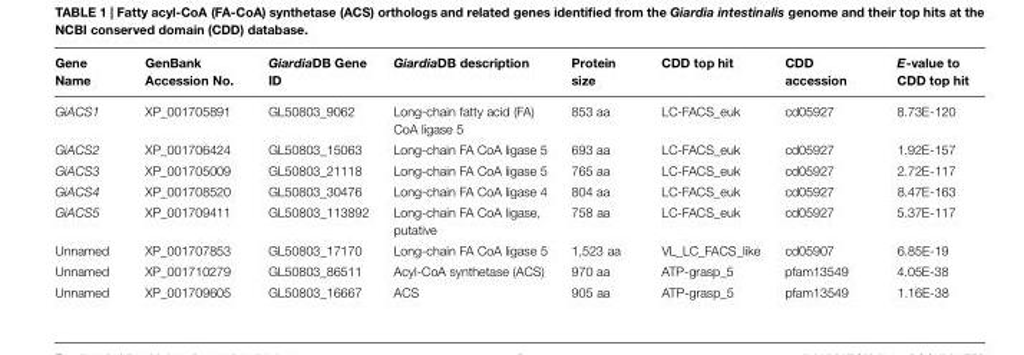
<table><thead><tr><td>Gene Name</td><td>GenBank Accession No.</td><td>GiardiaDB Gene ID</td><td>GiardiaDB description</td><td>Protein size</td><td>CDD top hit</td><td>CDD accession</td><td>E-value to CDD top hit</td></tr></thead><tbody><tr><td>GiACS1</td><td>XP_001705891</td><td>GL50803_9062</td><td>Long-chain fatty acid (FA) CoA ligase 5</td><td>853 aa</td><td>LC-FACS_euk</td><td>cd05927</td><td>8.73E-120</td></tr><tr><td>GiACS2</td><td>XP_001706424</td><td>GL50803_15063</td><td>Long-chain FA CoA ligase 5</td><td>693 aa</td><td>LC-FACS_euk</td><td>cd05927</td><td>1.92E-157</td></tr><tr><td>GiACS3</td><td>XP_001705009</td><td>GL50803_21118</td><td>Long-chain FA CoA ligase 5</td><td>765 aa</td><td>LC-FACS_euk</td><td>cd05927</td><td>2.72E-117</td></tr><tr><td>GiACS4</td><td>XP_001708520</td><td>GL50803_30476</td><td>Long-chain FA CoA ligase 4</td><td>804 aa</td><td>LC-FACS_euk</td><td>cd05927</td><td>8.47E-163</td></tr><tr><td>GiACS5</td><td>XP_001709411</td><td>GL50803_113892</td><td>Long-chain FA CoA ligase, putative</td><td>758 aa</td><td>LC-FACS_euk</td><td>cd05927</td><td>5.37E-117</td></tr><tr><td>Unnamed</td><td>XP_001707853</td><td>GL50803_17170</td><td>Long-chain FA CoA ligase 5</td><td>1,523 aa</td><td>VL_LC_FACS_like</td><td>cd05907</td><td>6.85E-19</td></tr><tr><td>Unnamed</td><td>XP_001710279</td><td>GL50803_86511</td><td>Acyl-CoA synthetase (ACS)</td><td>970 aa</td><td>ATP-grasp_5</td><td>pfam13549</td><td>4.05E-38</td></tr><tr><td>Unnamed</td><td>XP_001709605</td><td>GL50803_16667</td><td>ACS</td><td>905 aa</td><td>ATP-grasp_5</td><td>pfam13549</td><td>1.16E-38</td></tr></tbody></table>